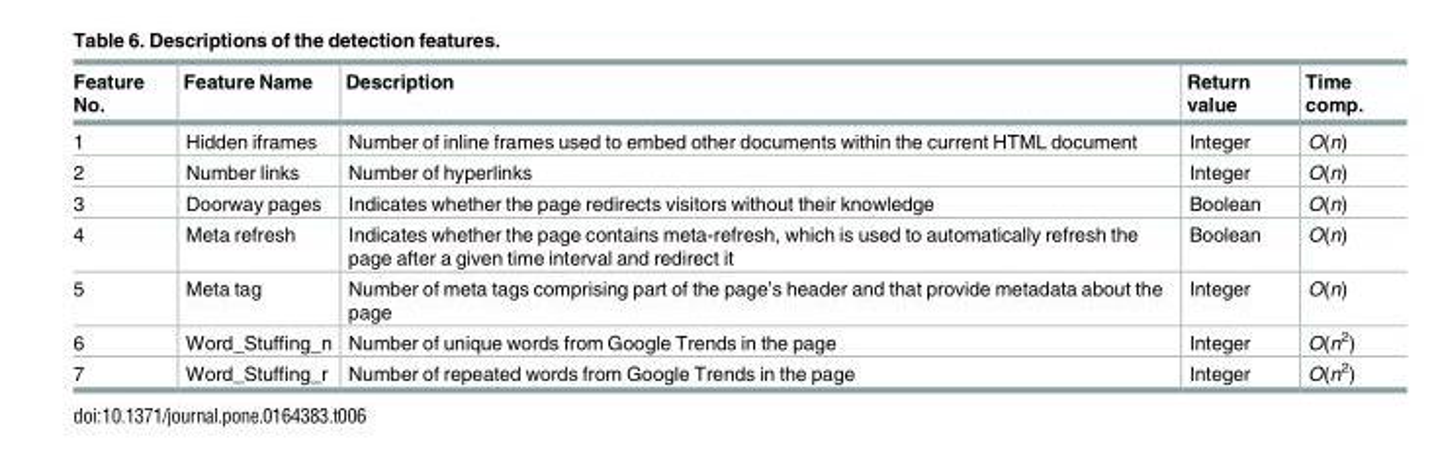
<table><thead><tr><td>Feature No.</td><td>Feature Name</td><td>Description</td><td>Return value</td><td>Time comp.</td></tr></thead><tbody><tr><td>1</td><td>Hidden iframes</td><td>Number of inline frames used to embed other documents within the current HTML document</td><td>Integer</td><td>O(n)</td></tr><tr><td>2</td><td>Number links</td><td>Number of hyperlinks</td><td>Integer</td><td>O(n)</td></tr><tr><td>3</td><td>Doorway pages</td><td>Indicates whether the page redirects visitors without their knowledge</td><td>Boolean</td><td>O(n)</td></tr><tr><td>4</td><td>Meta refresh</td><td>Indicates whether the page contains meta-refresh, which is used to automatically refresh the page after a given time interval and redirect it</td><td>Boolean</td><td>O(n)</td></tr><tr><td>5</td><td>Meta tag</td><td>Number of meta tags comprising part of the page’s header and that provide metadata about the page</td><td>Integer</td><td>O(n)</td></tr><tr><td>6</td><td>Word_Stuffing_n</td><td>Number of unique words from Google Trends in the page</td><td>Integer</td><td>O(n<sup>2</sup>)</td></tr><tr><td>7</td><td>Word_Stuffing_r</td><td>Number of repeated words from Google Trends in the page</td><td>Integer</td><td>O(n<sup>2</sup>)</td></tr></tbody></table>